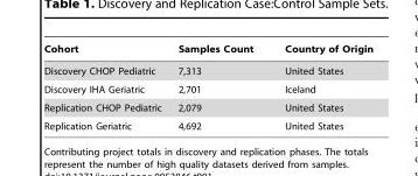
<table><thead><tr><td>Cohort</td><td>Samples Count</td><td>Country of Origin</td></tr></thead><tbody><tr><td>Discovery CHOP Pediatric</td><td>7,313</td><td>United States</td></tr><tr><td>Discovery IHA Geriatric</td><td>2,701</td><td>Iceland</td></tr><tr><td>Replication CHOP Pediatric</td><td>2,079</td><td>United States</td></tr><tr><td>Replication Geriatric</td><td>4,692</td><td>United States</td></tr></tbody></table>